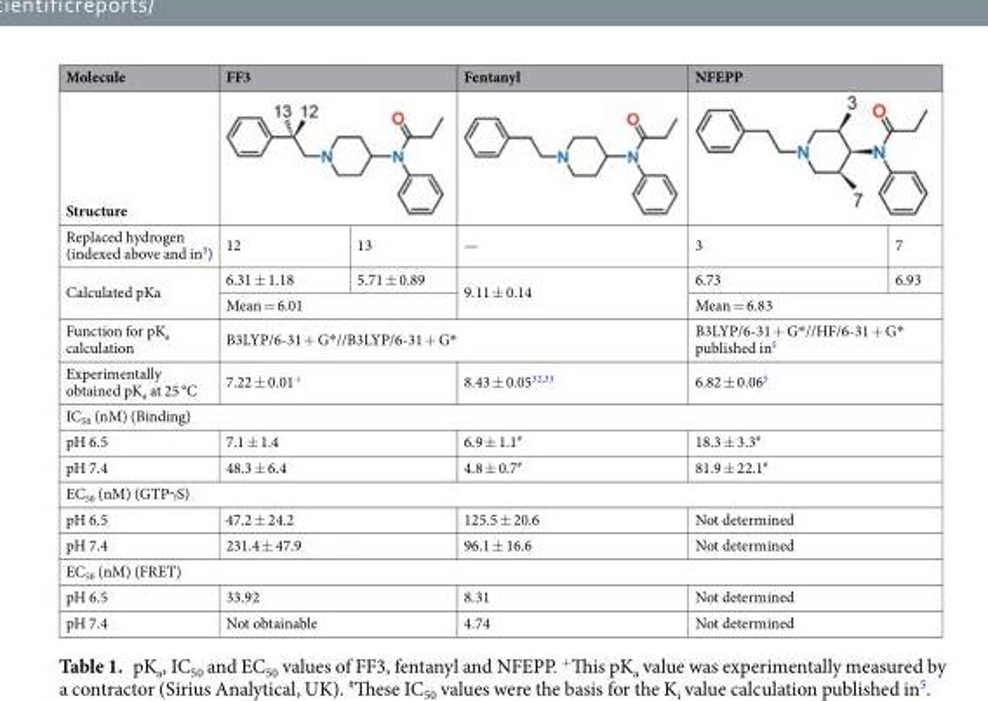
<table><thead><tr><td rowspan="2">Molecule Structure</td><td colspan="2">FF3</td><td rowspan="2">Fentanyl</td><td colspan="2">NFEPP</td></tr><tr><td></td><td></td><td></td><td></td></tr></thead><tbody><tr><td>Replaced hydrogen (indexed above and in<sup>5</sup>)</td><td>12</td><td>13</td><td>—</td><td>3</td><td>7</td></tr><tr><td rowspan="2">Calculated pKa</td><td>6.31 ± 1.18</td><td>5.71 ± 0.89</td><td rowspan="2">9.11 ± 0.14</td><td>6.73</td><td>6.93</td></tr><tr><td colspan="2">Mean = 6.01</td><td colspan="2">Mean = 6.83</td></tr><tr><td>Function for pK<sub>a</sub> calculation</td><td colspan="3">B3LYP/6-31 + G*//B3LYP/6-31 + G*</td><td colspan="2">B3LYP/6-31 + G*//HF/6-31 + G* published in<sup>5</sup></td></tr><tr><td>Experimentally obtained pK<sub>a</sub> at 25 °C</td><td colspan="2">7.22 ± 0.01<sup>+</sup></td><td>8.43 ± 0.05<sup>32,33</sup></td><td colspan="2">6.82 ± 0.06<sup>5</sup></td></tr><tr><td colspan="6">IC<sub>50</sub> (nM) (Binding)</td></tr><tr><td>pH 6.5</td><td colspan="2">7.1 ± 1.4</td><td>6.9 ± 1.1<sup>#</sup></td><td colspan="2">18.3 ± 3.3<sup>#</sup></td></tr><tr><td>pH 7.4</td><td colspan="2">48.3 ± 6.4</td><td>4.8 ± 0.7<sup>#</sup></td><td colspan="2">81.9 ± 22.1<sup>#</sup></td></tr><tr><td colspan="6">EC<sub>50</sub> (nM) (GTPγS)</td></tr><tr><td>pH 6.5</td><td colspan="2">47.2 ± 24.2</td><td>125.5 ± 20.6</td><td colspan="2">Not determined</td></tr><tr><td>pH 7.4</td><td colspan="2">231.4 ± 47.9</td><td>96.1 ± 16.6</td><td colspan="2">Not determined</td></tr><tr><td colspan="6">EC<sub>50</sub> (nM) (FRET)</td></tr><tr><td>pH 6.5</td><td colspan="2">33.92</td><td>8.31</td><td colspan="2">Not determined</td></tr><tr><td>pH 7.4</td><td colspan="2">Not obtainable</td><td>4.74</td><td colspan="2">Not determined</td></tr></tbody></table>